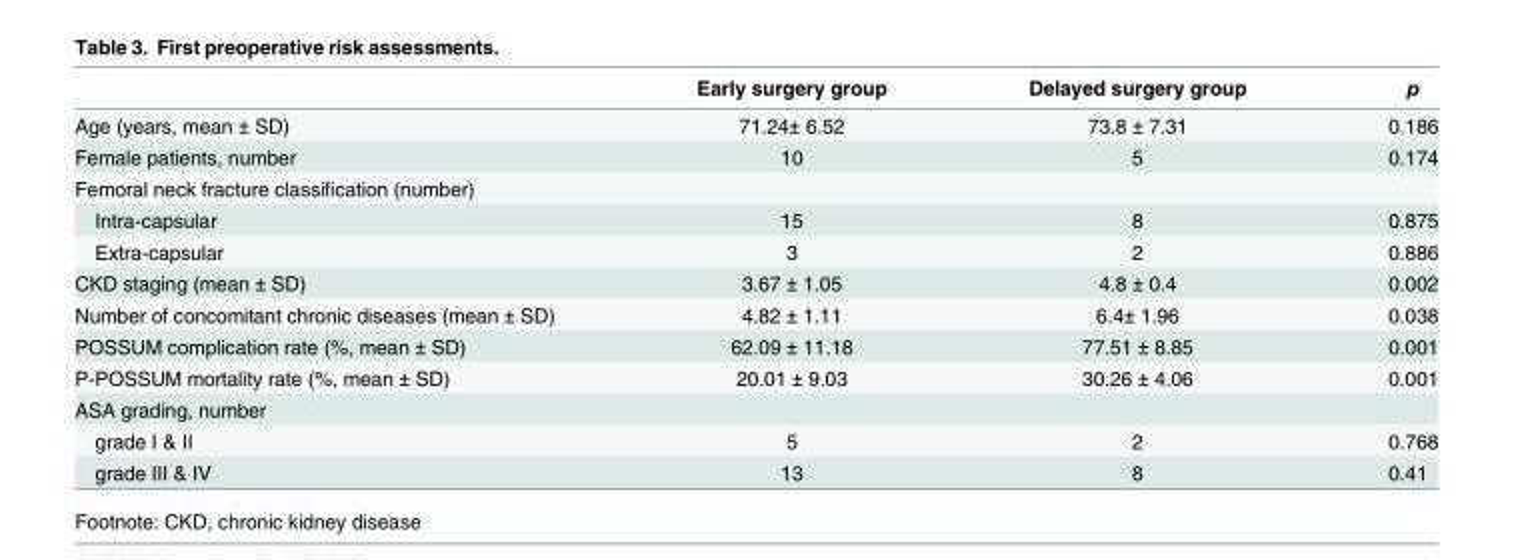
<table><thead><tr><td></td><td>Early surgery group</td><td>Delayed surgery group</td><td>p</td></tr></thead><tbody><tr><td>Age (years, mean ± SD)</td><td>71.24± 6.52</td><td>73.8 ± 7.31</td><td>0.186</td></tr><tr><td>Female patients, number</td><td>10</td><td>5</td><td>0.174</td></tr><tr><td colspan="4">Femoral neck fracture classification (number)</td></tr><tr><td>Intra-capsular</td><td>15</td><td>8</td><td>0.875</td></tr><tr><td>Extra-capsular</td><td>3</td><td>2</td><td>0.886</td></tr><tr><td>CKD staging (mean ± SD)</td><td>3.67 ± 1.05</td><td>4.8 ± 0.4</td><td>0.002</td></tr><tr><td>Number of concomitant chronic diseases (mean ± SD)</td><td>4.82 ± 1.11</td><td>6.4± 1.96</td><td>0.038</td></tr><tr><td>POSSUM complication rate (%, mean ± SD)</td><td>62.09 ± 11.18</td><td>77.51 ± 8.85</td><td>0.001</td></tr><tr><td>P-POSSUM mortality rate (%, mean ± SD)</td><td>20.01 ± 9.03</td><td>30.26 ± 4.06</td><td>0.001</td></tr><tr><td colspan="4">ASA grading, number</td></tr><tr><td>grade I &amp; II</td><td>5</td><td>2</td><td>0.768</td></tr><tr><td>grade III &amp; IV</td><td>13</td><td>8</td><td>0.41</td></tr></tbody></table>